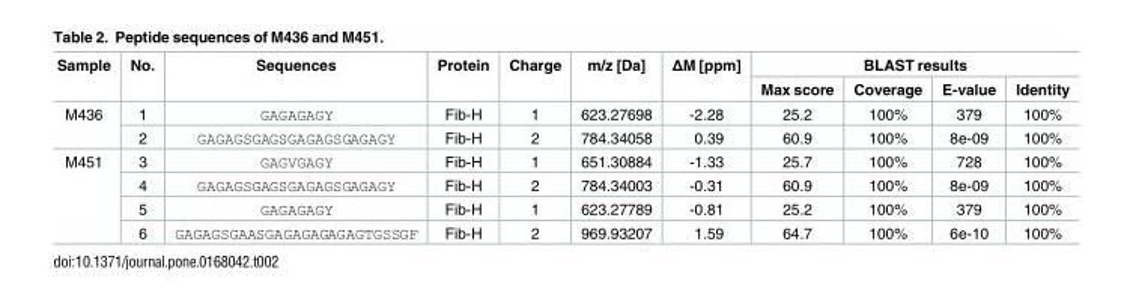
<table><thead><tr><td rowspan="2">Sample</td><td rowspan="2">No.</td><td rowspan="2">Sequences</td><td rowspan="2">Protein</td><td rowspan="2">Charge</td><td rowspan="2">m/z [Da]</td><td rowspan="2">ΔM [ppm]</td><td colspan="4">BLAST results</td></tr><tr><td>Max score</td><td>Coverage</td><td>E-value</td><td>Identity</td></tr></thead><tbody><tr><td rowspan="2">M436</td><td>1</td><td>GAGAGAGY</td><td>Fib-H</td><td>1</td><td>623.27698</td><td>-2.28</td><td>25.2</td><td>100%</td><td>379</td><td>100%</td></tr><tr><td>2</td><td>GAGAGSGAGSGAGAGSGAGAGY</td><td>Fib-H</td><td>2</td><td>784.34058</td><td>0.39</td><td>60.9</td><td>100%</td><td>8e-09</td><td>100%</td></tr><tr><td rowspan="4">M451</td><td>3</td><td>GAGVGAGY</td><td>Fib-H</td><td>1</td><td>651.30884</td><td>-1.33</td><td>25.7</td><td>100%</td><td>728</td><td>100%</td></tr><tr><td>4</td><td>GAGAGSGAGSGAGAGSGAGAGY</td><td>Fib-H</td><td>2</td><td>784.34003</td><td>-0.31</td><td>60.9</td><td>100%</td><td>8e-09</td><td>100%</td></tr><tr><td>5</td><td>GAGAGAGY</td><td>Fib-H</td><td>1</td><td>623.27789</td><td>-0.81</td><td>25.2</td><td>100%</td><td>379</td><td>100%</td></tr><tr><td>6</td><td>GAGAGSGAASGAGAGAGAGAGTGSSGF</td><td>Fib-H</td><td>2</td><td>969.93207</td><td>1.59</td><td>64.7</td><td>100%</td><td>6e-10</td><td>100%</td></tr></tbody></table>